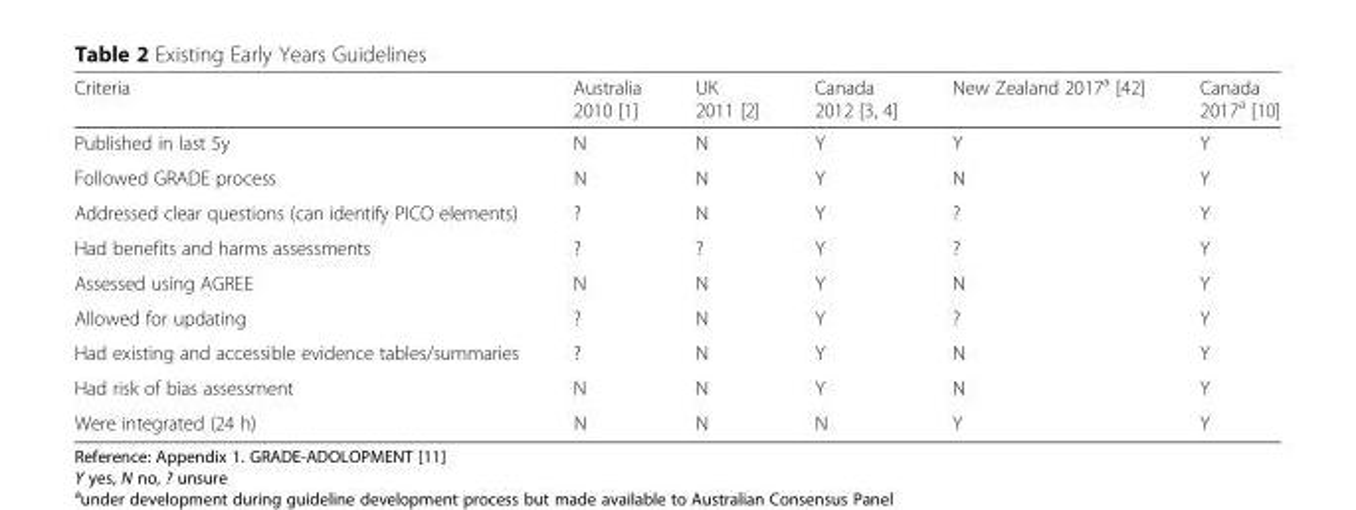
<table><thead><tr><td>Criteria</td><td>Australia 2010 [1]</td><td>UK 2011 [2]</td><td>Canada 2012 [3, 4]</td><td>New Zealand 2017<sup>a</sup> [42]</td><td>Canada 2017<sup>a</sup> [10]</td></tr></thead><tbody><tr><td>Published in last 5y</td><td>N</td><td>N</td><td>Y</td><td>Y</td><td>Y</td></tr><tr><td>Followed GRADE process</td><td>N</td><td>N</td><td>Y</td><td>N</td><td>Y</td></tr><tr><td>Addressed clear questions (can identify PICO elements)</td><td>?</td><td>N</td><td>Y</td><td>?</td><td>Y</td></tr><tr><td>Had benefits and harms assessments</td><td>?</td><td>?</td><td>Y</td><td>?</td><td>Y</td></tr><tr><td>Assessed using AGREE</td><td>N</td><td>N</td><td>Y</td><td>N</td><td>Y</td></tr><tr><td>Allowed for updating</td><td>?</td><td>N</td><td>Y</td><td>?</td><td>Y</td></tr><tr><td>Had existing and accessible evidence tables/summaries</td><td>?</td><td>N</td><td>Y</td><td>N</td><td>Y</td></tr><tr><td>Had risk of bias assessment</td><td>N</td><td>N</td><td>Y</td><td>N</td><td>Y</td></tr><tr><td>Were integrated (24 h)</td><td>N</td><td>N</td><td>N</td><td>Y</td><td>Y</td></tr></tbody></table>